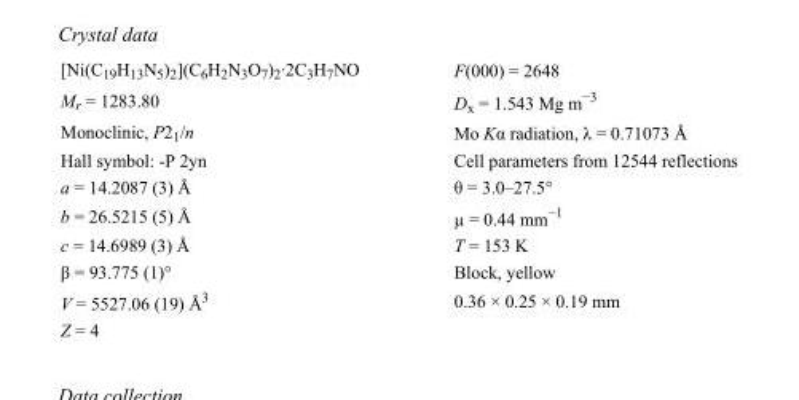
<table><tbody><tr><td>[Ni(C<sub>19</sub>H<sub>13</sub>N<sub>5</sub>)<sub>2</sub>](C<sub>6</sub>H<sub>2</sub>N<sub>3</sub>O<sub>7</sub>)<sub>2</sub>·2C<sub>3</sub>H<sub>7</sub>NO</td><td>F(000) = 2648</td></tr><tr><td>M<sub>r</sub> = 1283.80</td><td>D<sub>x</sub> = 1.543 Mg m<sup>−3</sup></td></tr><tr><td>Monoclinic, P2<sub>1</sub>/n</td><td>Mo Kα radiation, λ = 0.71073 Å</td></tr><tr><td>Hall symbol: -P 2yn</td><td>Cell parameters from 12544 reflections</td></tr><tr><td>a = 14.2087 (3) Å</td><td>θ = 3.0–27.5°</td></tr><tr><td>b = 26.5215 (5) Å</td><td>µ = 0.44 mm<sup>−1</sup></td></tr><tr><td>c = 14.6989 (3) Å</td><td>T = 153 K</td></tr><tr><td>β = 93.775 (1)°</td><td>Block, yellow</td></tr><tr><td>V = 5527.06 (19) Å<sup>3</sup></td><td>0.36 × 0.25 × 0.19 mm</td></tr><tr><td>Z = 4</td><td></td></tr></tbody></table>